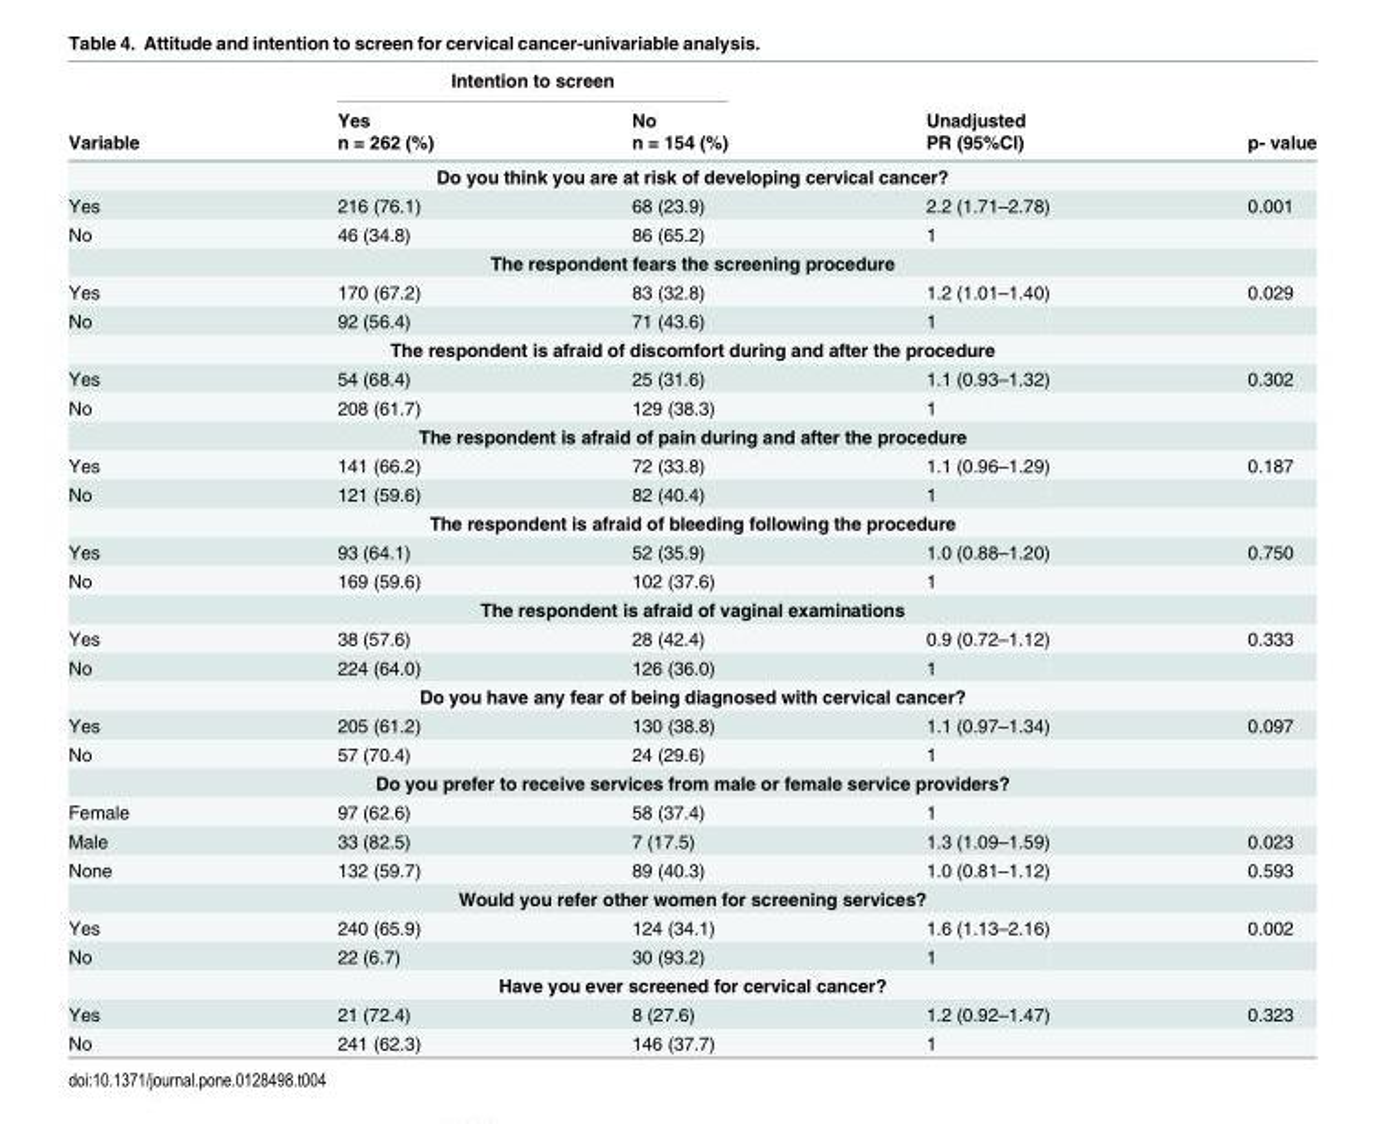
<table><thead><tr><td rowspan="3">Variable</td><td colspan="2">Intention to screen</td><td rowspan="3">Unadjusted PR (95%CI)</td><td rowspan="3">p- value</td></tr><tr><td rowspan="2">Yes n = 262 (%)</td><td rowspan="2">No n = 154 (%)</td></tr><tr></tr></thead><tbody><tr><td colspan="5">Do you think you are at risk of developing cervical cancer?</td></tr><tr><td>Yes</td><td>216 (76.1)</td><td>68 (23.9)</td><td>2.2 (1.71–2.78)</td><td>0.001</td></tr><tr><td>No</td><td>46 (34.8)</td><td>86 (65.2)</td><td>1</td><td></td></tr><tr><td colspan="5">The respondent fears the screening procedure</td></tr><tr><td>Yes</td><td>170 (67.2)</td><td>83 (32.8)</td><td>1.2 (1.01–1.40)</td><td>0.029</td></tr><tr><td>No</td><td>92 (56.4)</td><td>71 (43.6)</td><td>1</td><td></td></tr><tr><td colspan="5">The respondent is afraid of discomfort during and after the procedure</td></tr><tr><td>Yes</td><td>54 (68.4)</td><td>25 (31.6)</td><td>1.1 (0.93–1.32)</td><td>0.302</td></tr><tr><td>No</td><td>208 (61.7)</td><td>129 (38.3)</td><td>1</td><td></td></tr><tr><td colspan="5">The respondent is afraid of pain during and after the procedure</td></tr><tr><td>Yes</td><td>141 (66.2)</td><td>72 (33.8)</td><td>1.1 (0.96–1.29)</td><td>0.187</td></tr><tr><td>No</td><td>121 (59.6)</td><td>82 (40.4)</td><td>1</td><td></td></tr><tr><td colspan="5">The respondent is afraid of bleeding following the procedure</td></tr><tr><td>Yes</td><td>93 (64.1)</td><td>52 (35.9)</td><td>1.0 (0.88–1.20)</td><td>0.750</td></tr><tr><td>No</td><td>169 (59.6)</td><td>102 (37.6)</td><td>1</td><td></td></tr><tr><td colspan="5">The respondent is afraid of vaginal examinations</td></tr><tr><td>Yes</td><td>38 (57.6)</td><td>28 (42.4)</td><td>0.9 (0.72–1.12)</td><td>0.333</td></tr><tr><td>No</td><td>224 (64.0)</td><td>126 (36.0)</td><td>1</td><td></td></tr><tr><td colspan="5">Do you have any fear of being diagnosed with cervical cancer?</td></tr><tr><td>Yes</td><td>205 (61.2)</td><td>130 (38.8)</td><td>1.1 (0.97–1.34)</td><td>0.097</td></tr><tr><td>No</td><td>57 (70.4)</td><td>24 (29.6)</td><td>1</td><td></td></tr><tr><td colspan="5">Do you prefer to receive services from male or female service providers?</td></tr><tr><td>Female</td><td>97 (62.6)</td><td>58 (37.4)</td><td>1</td><td></td></tr><tr><td>Male</td><td>33 (82.5)</td><td>7 (17.5)</td><td>1.3 (1.09–1.59)</td><td>0.023</td></tr><tr><td>None</td><td>132 (59.7)</td><td>89 (40.3)</td><td>1.0 (0.81–1.12)</td><td>0.593</td></tr><tr><td colspan="5">Would you refer other women for screening services?</td></tr><tr><td>Yes</td><td>240 (65.9)</td><td>124 (34.1)</td><td>1.6 (1.13–2.16)</td><td>0.002</td></tr><tr><td>No</td><td>22 (6.7)</td><td>30 (93.2)</td><td>1</td><td></td></tr><tr><td colspan="5">Have you ever screened for cervical cancer?</td></tr><tr><td>Yes</td><td>21 (72.4)</td><td>8 (27.6)</td><td>1.2 (0.92–1.47)</td><td>0.323</td></tr><tr><td>No</td><td>241 (62.3)</td><td>146 (37.7)</td><td>1</td><td></td></tr></tbody></table>